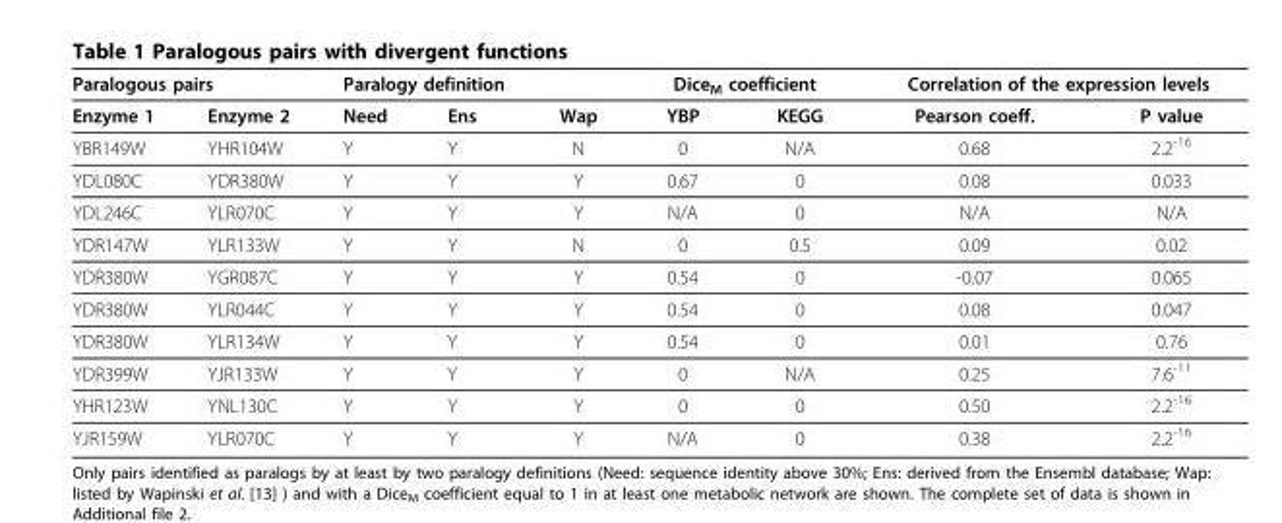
<table><thead><tr><td colspan="2">Paralogous pairs</td><td colspan="3">Paralogy definition</td><td colspan="2">Dice<sub>M</sub> coefficient</td><td colspan="2">Correlation of the expression levels</td></tr><tr><td>Enzyme 1</td><td>Enzyme 2</td><td>Need</td><td>Ens</td><td>Wap</td><td>YBP</td><td>KEGG</td><td>Pearson coeff.</td><td>P value</td></tr></thead><tbody><tr><td>YBR149W</td><td>YHR104W</td><td>Y</td><td>Y</td><td>N</td><td>0</td><td>N/A</td><td>0.68</td><td>2.2<sup>-16</sup></td></tr><tr><td>YDL080C</td><td>YDR380W</td><td>Y</td><td>Y</td><td>Y</td><td>0.67</td><td>0</td><td>0.08</td><td>0.033</td></tr><tr><td>YDL246C</td><td>YLR070C</td><td>Y</td><td>Y</td><td>Y</td><td>N/A</td><td>0</td><td>N/A</td><td>N/A</td></tr><tr><td>YDR147W</td><td>YLR133W</td><td>Y</td><td>Y</td><td>N</td><td>0</td><td>0.5</td><td>0.09</td><td>0.02</td></tr><tr><td>YDR380W</td><td>YGR087C</td><td>Y</td><td>Y</td><td>Y</td><td>0.54</td><td>0</td><td>-0.07</td><td>0.065</td></tr><tr><td>YDR380W</td><td>YLR044C</td><td>Y</td><td>Y</td><td>Y</td><td>0.54</td><td>0</td><td>0.08</td><td>0.047</td></tr><tr><td>YDR380W</td><td>YLR134W</td><td>Y</td><td>Y</td><td>Y</td><td>0.54</td><td>0</td><td>0.01</td><td>0.76</td></tr><tr><td>YDR399W</td><td>YJR133W</td><td>Y</td><td>Y</td><td>Y</td><td>0</td><td>N/A</td><td>0.25</td><td>7.6<sup>-11</sup></td></tr><tr><td>YHR123W</td><td>YNL130C</td><td>Y</td><td>Y</td><td>Y</td><td>0</td><td>0</td><td>0.50</td><td>2.2<sup>-16</sup></td></tr><tr><td>YJR159W</td><td>YLR070C</td><td>Y</td><td>Y</td><td>Y</td><td>N/A</td><td>0</td><td>0.38</td><td>2.2<sup>-16</sup></td></tr></tbody></table>